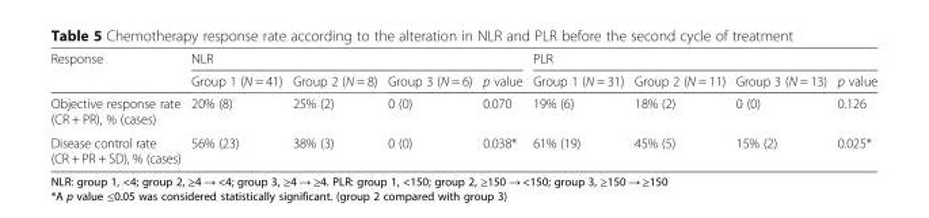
<table><thead><tr><td rowspan="2">Response</td><td colspan="4">NLR</td><td colspan="4">PLR</td></tr><tr><td>Group 1 (N = 41)</td><td>Group 2 (N = 8)</td><td>Group 3 (N = 6)</td><td>p value</td><td>Group 1 (N = 31)</td><td>Group 2 (N = 11)</td><td>Group 3 (N = 13)</td><td>p value</td></tr></thead><tbody><tr><td>Objective response rate (CR + PR), % (cases)</td><td>20% (8)</td><td>25% (2)</td><td>0 (0)</td><td>0.070</td><td>19% (6)</td><td>18% (2)</td><td>0 (0)</td><td>0.126</td></tr><tr><td>Disease control rate (CR + PR + SD), % (cases)</td><td>56% (23)</td><td>38% (3)</td><td>0 (0)</td><td>0.038*</td><td>61% (19)</td><td>45% (5)</td><td>15% (2)</td><td>0.025*</td></tr></tbody></table>